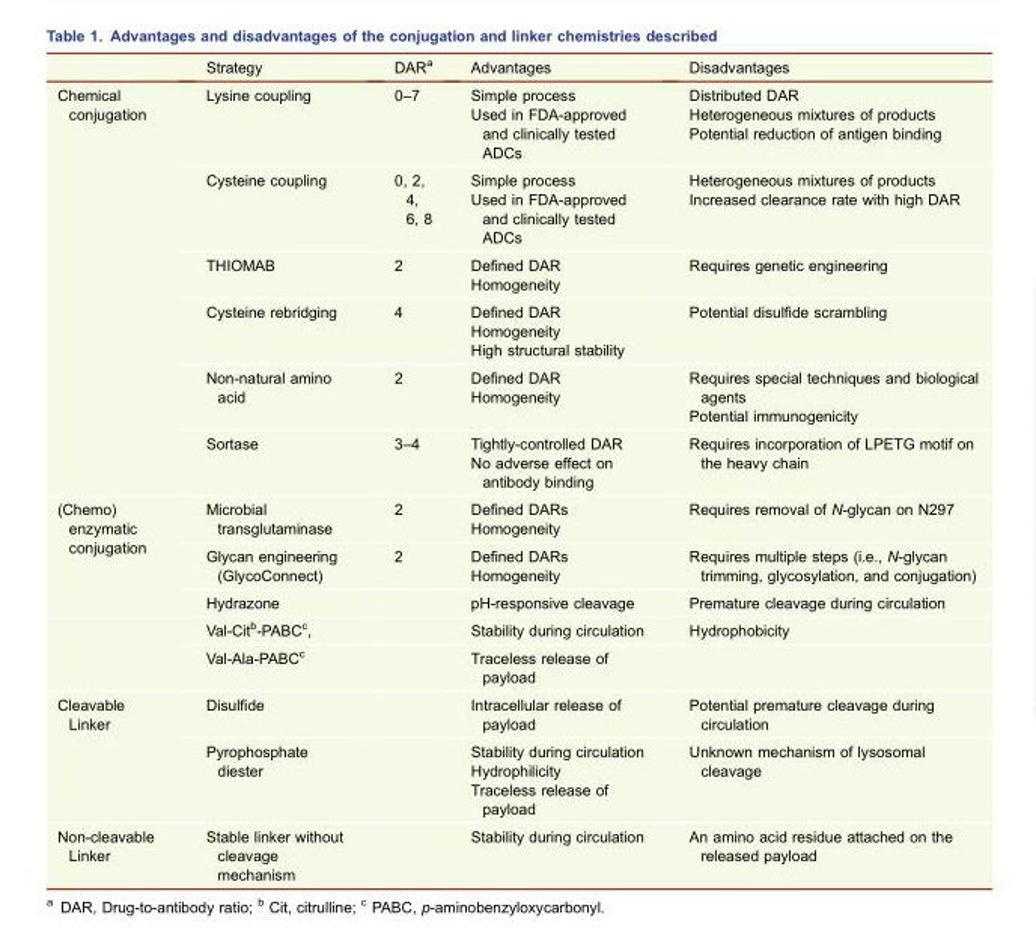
<table><thead><tr><td></td><td>Strategy</td><td>DAR<sup>a</sup></td><td>Advantages</td><td>Disadvantages</td></tr></thead><tbody><tr><td rowspan="6">Chemical conjugation</td><td>Lysine coupling</td><td>0–7</td><td>Simple process Used in FDA-approved and clinically tested ADCs</td><td>Distributed DAR Heterogeneous mixtures of products Potential reduction of antigen binding</td></tr><tr><td>Cysteine coupling</td><td>0, 2, 4, 6, 8</td><td>Simple process Used in FDA-approved and clinically tested ADCs</td><td>Heterogeneous mixtures of products Increased clearance rate with high DAR</td></tr><tr><td>THIOMAB</td><td>2</td><td>Defined DAR Homogeneity</td><td>Requires genetic engineering</td></tr><tr><td>Cysteine rebridging</td><td>4</td><td>Defined DAR Homogeneity High structural stability</td><td>Potential disulfide scrambling</td></tr><tr><td>Non-natural amino acid</td><td>2</td><td>Defined DAR Homogeneity</td><td>Requires special techniques and biological agents Potential immunogenicity</td></tr><tr><td>Sortase</td><td>3–4</td><td>Tightly-controlled DAR No adverse effect on antibody binding</td><td>Requires incorporation of LPETG motif on the heavy chain</td></tr><tr><td rowspan="5">(Chemo) enzymatic conjugation</td><td>Microbial transglutaminase</td><td>2</td><td>Defined DARs Homogeneity</td><td>Requires removal of N-glycan on N297</td></tr><tr><td>Glycan engineering (GlycoConnect)</td><td>2</td><td>Defined DARs Homogeneity</td><td>Requires multiple steps (i.e., N-glycan trimming, glycosylation, and conjugation)</td></tr><tr><td>Hydrazone</td><td></td><td>pH-responsive cleavage</td><td>Premature cleavage during circulation</td></tr><tr><td>Val-Cit<sup>b</sup>-PABC<sup>c</sup>,</td><td></td><td>Stability during circulation</td><td>Hydrophobicity</td></tr><tr><td>Val-Ala-PABC<sup>c</sup></td><td></td><td>Traceless release of payload</td><td></td></tr><tr><td rowspan="2">Cleavable Linker</td><td>Disulfide</td><td></td><td>Intracellular release of payload</td><td>Potential premature cleavage during circulation</td></tr><tr><td>Pyrophosphate diester</td><td></td><td>Stability during circulation Hydrophilicity Traceless release of payload</td><td>Unknown mechanism of lysosomal cleavage</td></tr><tr><td>Non-cleavable Linker</td><td>Stable linker without cleavage mechanism</td><td></td><td>Stability during circulation</td><td>An amino acid residue attached on the released payload</td></tr></tbody></table>